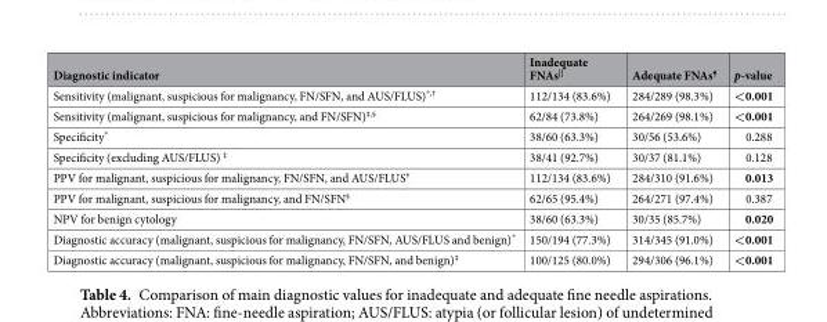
<table><thead><tr><td>Diagnostic indicator</td><td>Inadequate FNAs<sup>||</sup></td><td>Adequate FNAs<sup>¶</sup></td><td>p-value</td></tr></thead><tbody><tr><td>Sensitivity (malignant, suspicious for malignancy, FN/SFN, and AUS/FLUS)<sup>*,†</sup></td><td>112/134 (83.6%)</td><td>284/289 (98.3%)</td><td>&lt;0.001</td></tr><tr><td>Sensitivity (malignant, suspicious for malignancy, and FN/SFN)<sup>‡,§</sup></td><td>62/84 (73.8%)</td><td>264/269 (98.1%)</td><td>&lt;0.001</td></tr><tr><td>Specificity*</td><td>38/60 (63.3%)</td><td>30/56 (53.6%)</td><td>0.288</td></tr><tr><td>Specificity (excluding AUS/FLUS) <sup>‡</sup></td><td>38/41 (92.7%)</td><td>30/37 (81.1%)</td><td>0.128</td></tr><tr><td>PPV for malignant, suspicious for malignancy, FN/SFN, and AUS/FLUS<sup>†</sup></td><td>112/134 (83.6%)</td><td>284/310 (91.6%)</td><td>0.013</td></tr><tr><td>PPV for malignant, suspicious for malignancy, and FN/SFN<sup>§</sup></td><td>62/65 (95.4%)</td><td>264/271 (97.4%)</td><td>0.387</td></tr><tr><td>NPV for benign cytology</td><td>38/60 (63.3%)</td><td>30/35 (85.7%)</td><td>0.020</td></tr><tr><td>Diagnostic accuracy (malignant, suspicious for malignancy, FN/SFN, AUS/FLUS and benign)*</td><td>150/194 (77.3%)</td><td>314/345 (91.0%)</td><td>&lt;0.001</td></tr><tr><td>Diagnostic accuracy (malignant, suspicious for malignancy, FN/SFN, and benign)<sup>‡</sup></td><td>100/125 (80.0%)</td><td>294/306 (96.1%)</td><td>&lt;0.001</td></tr></tbody></table>